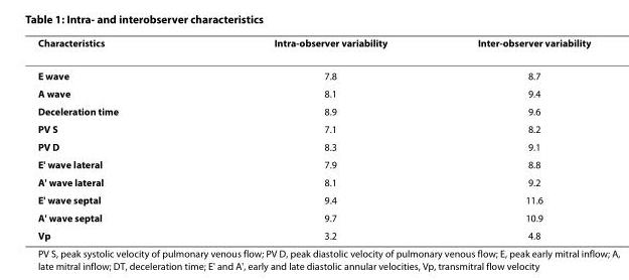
<table><thead><tr><td>Characteristics</td><td>Intra-observer variability</td><td>Inter-observer variability</td></tr></thead><tbody><tr><td>E wave</td><td>7.8</td><td>8.7</td></tr><tr><td>A wave</td><td>8.1</td><td>9.4</td></tr><tr><td>Deceleration time</td><td>8.9</td><td>9.6</td></tr><tr><td>PV S</td><td>7.1</td><td>8.2</td></tr><tr><td>PV D</td><td>8.3</td><td>9.1</td></tr><tr><td>E&#x27; wave lateral</td><td>7.9</td><td>8.8</td></tr><tr><td>A&#x27; wave lateral</td><td>8.1</td><td>9.2</td></tr><tr><td>E&#x27; wave septal</td><td>9.4</td><td>11.6</td></tr><tr><td>A&#x27; wave septal</td><td>9.7</td><td>10.9</td></tr><tr><td>Vp</td><td>3.2</td><td>4.8</td></tr></tbody></table>